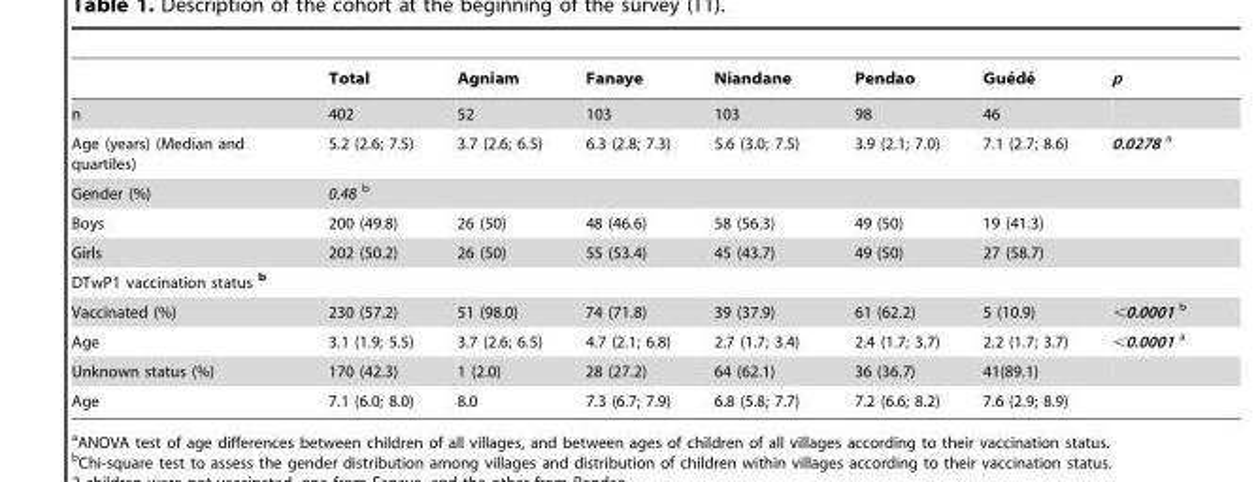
<table><thead><tr><td></td><td>Total</td><td>Agniam</td><td>Fanaye</td><td>Niandane</td><td>Pendao</td><td>Gue´de´</td><td>p</td></tr></thead><tbody><tr><td>n</td><td>402</td><td>52</td><td>103</td><td>103</td><td>98</td><td>46</td><td></td></tr><tr><td>Age (years) (Median and quartiles)</td><td>5.2 (2.6; 7.5)</td><td>3.7 (2.6; 6.5)</td><td>6.3 (2.8; 7.3)</td><td>5.6 (3.0; 7.5)</td><td>3.9 (2.1; 7.0)</td><td>7.1 (2.7; 8.6)</td><td>0.0278 a</td></tr><tr><td>Gender (%)</td><td colspan="7">0.48 b</td></tr><tr><td>Boys</td><td>200 (49.8)</td><td>26 (50)</td><td>48 (46.6)</td><td>58 (56.3)</td><td>49 (50)</td><td colspan="2">19 (41.3)</td></tr><tr><td>Girls</td><td>202 (50.2)</td><td>26 (50)</td><td>55 (53.4)</td><td>45 (43.7)</td><td>49 (50)</td><td colspan="2">27 (58.7)</td></tr><tr><td colspan="8">DTwP1 vaccination status b</td></tr><tr><td>Vaccinated (%)</td><td>230 (57.2)</td><td>51 (98.0)</td><td>74 (71.8)</td><td>39 (37.9)</td><td>61 (62.2)</td><td>5 (10.9)</td><td>&lt;0.0001 b</td></tr><tr><td>Age</td><td>3.1 (1.9; 5.5)</td><td>3.7 (2.6; 6.5)</td><td>4.7 (2.1; 6.8)</td><td>2.7 (1.7; 3.4)</td><td>2.4 (1.7; 3.7)</td><td>2.2 (1.7; 3.7)</td><td>&lt;0.0001 a</td></tr><tr><td>Unknown status (%)</td><td>170 (42.3)</td><td>1 (2.0)</td><td>28 (27.2)</td><td>64 (62.1)</td><td>36 (36.7)</td><td>41(89.1)</td><td></td></tr><tr><td>Age</td><td>7.1 (6.0; 8.0)</td><td>8.0</td><td>7.3 (6.7; 7.9)</td><td>6.8 (5.8; 7.7)</td><td>7.2 (6.6; 8.2)</td><td>7.6 (2.9; 8.9)</td><td></td></tr></tbody></table>